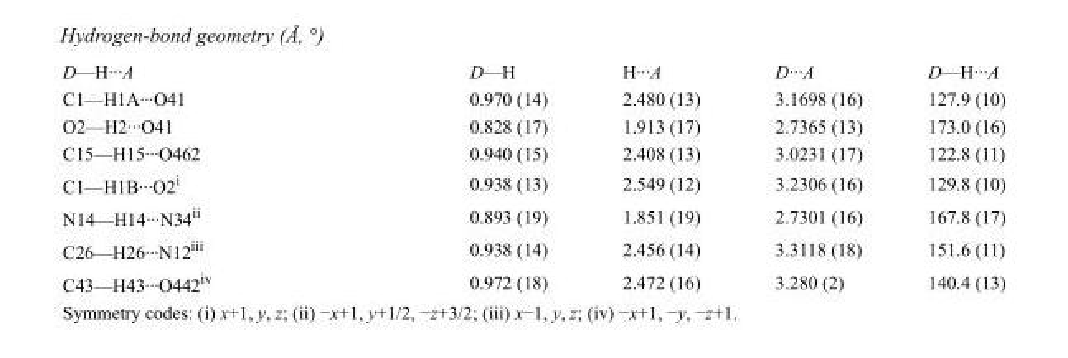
<table><tbody><tr><td>D—H···A</td><td>D—H</td><td>H···A</td><td>D···A</td><td>D—H···A</td></tr><tr><td>C1—H1A···O41</td><td>0.970 (14)</td><td>2.480 (13)</td><td>3.1698 (16)</td><td>127.9 (10)</td></tr><tr><td>O2—H2···O41</td><td>0.828 (17)</td><td>1.913 (17)</td><td>2.7365 (13)</td><td>173.0 (16)</td></tr><tr><td>C15—H15···O462</td><td>0.940 (15)</td><td>2.408 (13)</td><td>3.0231 (17)</td><td>122.8 (11)</td></tr><tr><td>C1—H1B···O2<sup>i</sup></td><td>0.938 (13)</td><td>2.549 (12)</td><td>3.2306 (16)</td><td>129.8 (10)</td></tr><tr><td>N14—H14···N34<sup>ii</sup></td><td>0.893 (19)</td><td>1.851 (19)</td><td>2.7301 (16)</td><td>167.8 (17)</td></tr><tr><td>C26—H26···N12<sup>iii</sup></td><td>0.938 (14)</td><td>2.456 (14)</td><td>3.3118 (18)</td><td>151.6 (11)</td></tr><tr><td>C43—H43···O442<sup>iv</sup></td><td>0.972 (18)</td><td>2.472 (16)</td><td>3.280 (2)</td><td>140.4 (13)</td></tr></tbody></table>